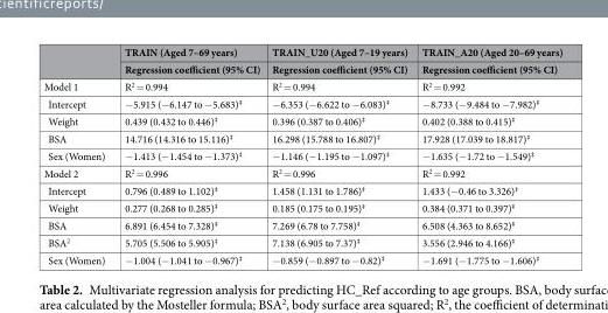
<table><thead><tr><td rowspan="2"></td><td rowspan="2">TRAIN (Aged 7–69 years) Regression coefficient (95% CI)</td><td rowspan="2">TRAIN_U20 (Aged 7–19 years) Regression coefficient (95% CI)</td><td rowspan="2">TRAIN_A20 (Aged 20–69 years) Regression coefficient (95% CI)</td></tr><tr></tr></thead><tbody><tr><td>Model 1</td><td>R<sup>2</sup> = 0.994</td><td>R<sup>2</sup> = 0.994</td><td>R<sup>2</sup> = 0.992</td></tr><tr><td>Intercept</td><td>−5.915 (−6.147 to −5.683)<sup>‡</sup></td><td>−6.353 (−6.622 to −6.083)<sup>‡</sup></td><td>−8.733 (−9.484 to −7.982)<sup>‡</sup></td></tr><tr><td>Weight</td><td>0.439 (0.432 to 0.446)<sup>‡</sup></td><td>0.396 (0.387 to 0.406)<sup>‡</sup></td><td>0.402 (0.388 to 0.415)<sup>‡</sup></td></tr><tr><td>BSA</td><td>14.716 (14.316 to 15.116)<sup>‡</sup></td><td>16.298 (15.788 to 16.807)<sup>‡</sup></td><td>17.928 (17.039 to 18.817)<sup>‡</sup></td></tr><tr><td>Sex (Women)</td><td>−1.413 (−1.454 to −1.373)<sup>‡</sup></td><td>−1.146 (−1.195 to −1.097)<sup>‡</sup></td><td>−1.635 (−1.72 to −1.549)<sup>‡</sup></td></tr><tr><td>Model 2</td><td>R<sup>2</sup> = 0.996</td><td>R<sup>2</sup> = 0.996</td><td>R<sup>2</sup> = 0.992</td></tr><tr><td>Intercept</td><td>0.796 (0.489 to 1.102)<sup>‡</sup></td><td>1.458 (1.131 to 1.786)<sup>‡</sup></td><td>1.433 (−0.46 to 3.326)<sup>‡</sup></td></tr><tr><td>Weight</td><td>0.277 (0.268 to 0.285)<sup>‡</sup></td><td>0.185 (0.175 to 0.195)<sup>‡</sup></td><td>0.384 (0.371 to 0.397)<sup>‡</sup></td></tr><tr><td>BSA</td><td>6.891 (6.454 to 7.328)<sup>‡</sup></td><td>7.269 (6.78 to 7.758)<sup>‡</sup></td><td>6.508 (4.363 to 8.652)<sup>‡</sup></td></tr><tr><td>BSA<sup>2</sup></td><td>5.705 (5.506 to 5.905)<sup>‡</sup></td><td>7.138 (6.905 to 7.37)<sup>‡</sup></td><td>3.556 (2.946 to 4.166)<sup>‡</sup></td></tr><tr><td>Sex (Women)</td><td>−1.004 (−1.041 to −0.967)<sup>‡</sup></td><td>−0.859 (−0.897 to −0.82)<sup>‡</sup></td><td>−1.691 (−1.775 to −1.606)<sup>‡</sup></td></tr></tbody></table>